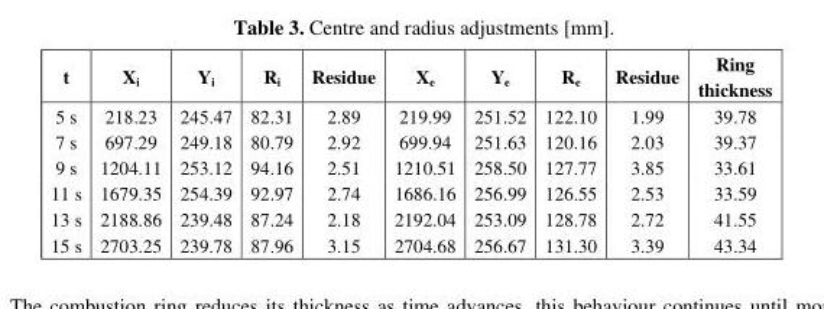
<table><thead><tr><td>t</td><td>X<sub>i</sub></td><td>Y<sub>i</sub></td><td>R<sub>i</sub></td><td>Residue</td><td>X<sub>e</sub></td><td>Y<sub>e</sub></td><td>R<sub>e</sub></td><td>Residue</td><td>Ring thickness</td></tr></thead><tbody><tr><td>5 s</td><td>218.23</td><td>245.47</td><td>82.31</td><td>2.89</td><td>219.99</td><td>251.52</td><td>122.10</td><td>1.99</td><td>39.78</td></tr><tr><td>7 s</td><td>697.29</td><td>249.18</td><td>80.79</td><td>2.92</td><td>699.94</td><td>251.63</td><td>120.16</td><td>2.03</td><td>39.37</td></tr><tr><td>9 s</td><td>1204.11</td><td>253.12</td><td>94.16</td><td>2.51</td><td>1210.51</td><td>258.50</td><td>127.77</td><td>3.85</td><td>33.61</td></tr><tr><td>11 s</td><td>1679.35</td><td>254.39</td><td>92.97</td><td>2.74</td><td>1686.16</td><td>256.99</td><td>126.55</td><td>2.53</td><td>33.59</td></tr><tr><td>13 s</td><td>2188.86</td><td>239.48</td><td>87.24</td><td>2.18</td><td>2192.04</td><td>253.09</td><td>128.78</td><td>2.72</td><td>41.55</td></tr><tr><td>15 s</td><td>2703.25</td><td>239.78</td><td>87.96</td><td>3.15</td><td>2704.68</td><td>256.67</td><td>131.30</td><td>3.39</td><td>43.34</td></tr></tbody></table>